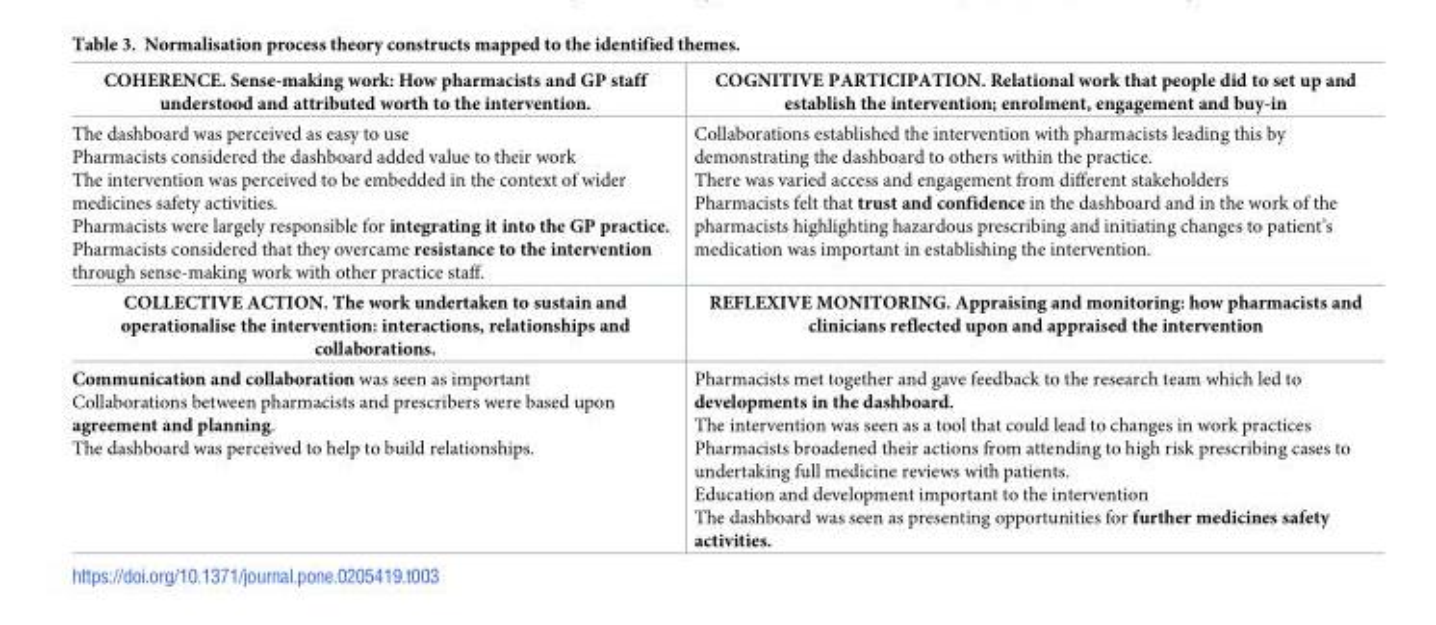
<table><tbody><tr><td>COHERENCE. Sense-making work: How pharmacists and GP staff understood and attributed worth to the intervention.</td><td>COGNITIVE PARTICIPATION. Relational work that people did to set up and establish the intervention; enrolment, engagement and buy-in</td></tr><tr><td>The dashboard was perceived as easy to use Pharmacists considered the dashboard added value to their work The intervention was perceived to be embedded in the context of wider medicines safety activities. Pharmacists were largely responsible for integrating it into the GP practice. Pharmacists considered that they overcame resistance to the intervention through sense-making work with other practice staff.</td><td>Collaborations established the intervention with pharmacists leading this by demonstrating the dashboard to others within the practice. There was varied access and engagement from different stakeholders Pharmacists felt that trust and confidence in the dashboard and in the work of the pharmacists highlighting hazardous prescribing and initiating changes to patient’s medication was important in establishing the intervention.</td></tr><tr><td>COLLECTIVE ACTION. The work undertaken to sustain and operationalise the intervention: interactions, relationships and collaborations.</td><td>REFLEXIVE MONITORING. Appraising and monitoring: how pharmacists and clinicians reflected upon and appraised the intervention</td></tr><tr><td>Communication and collaboration was seen as important Collaborations between pharmacists and prescribers were based upon agreement and planning. The dashboard was perceived to help to build relationships.</td><td>Pharmacists met together and gave feedback to the research team which led to developments in the dashboard. The intervention was seen as a tool that could lead to changes in work practices Pharmacists broadened their actions from attending to high risk prescribing cases to undertaking full medicine reviews with patients. Education and development important to the intervention The dashboard was seen as presenting opportunities for further medicines safety activities.</td></tr></tbody></table>